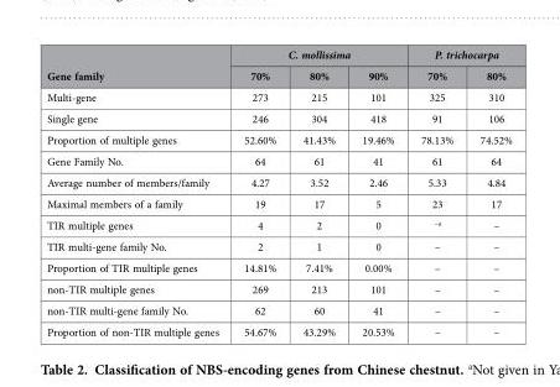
<table><thead><tr><td rowspan="2">Gene family</td><td colspan="3">C. mollissima</td><td colspan="2">P. trichocarpa</td></tr><tr><td>70%</td><td>80%</td><td>90%</td><td>70%</td><td>80%</td></tr></thead><tbody><tr><td>Multi-gene</td><td>273</td><td>215</td><td>101</td><td>325</td><td>310</td></tr><tr><td>Single gene</td><td>246</td><td>304</td><td>418</td><td>91</td><td>106</td></tr><tr><td>Proportion of multiple genes</td><td>52.60%</td><td>41.43%</td><td>19.46%</td><td>78.13%</td><td>74.52%</td></tr><tr><td>Gene Family No.</td><td>64</td><td>61</td><td>41</td><td>61</td><td>64</td></tr><tr><td>Average number of members/family</td><td>4.27</td><td>3.52</td><td>2.46</td><td>5.33</td><td>4.84</td></tr><tr><td>Maximal members of a family</td><td>19</td><td>17</td><td>5</td><td>23</td><td>17</td></tr><tr><td>TIR multiple genes</td><td>4</td><td>2</td><td>0</td><td>–a</td><td>–</td></tr><tr><td>TIR multi-gene family No.</td><td>2</td><td>1</td><td>0</td><td>–</td><td>–</td></tr><tr><td>Proportion of TIR multiple genes</td><td>14.81%</td><td>7.41%</td><td>0.00%</td><td>–</td><td>–</td></tr><tr><td>non-TIR multiple genes</td><td>269</td><td>213</td><td>101</td><td>–</td><td>–</td></tr><tr><td>non-TIR multi-gene family No.</td><td>62</td><td>60</td><td>41</td><td>–</td><td>–</td></tr><tr><td>Proportion of non-TIR multiple genes</td><td>54.67%</td><td>43.29%</td><td>20.53%</td><td>–</td><td>–</td></tr></tbody></table>